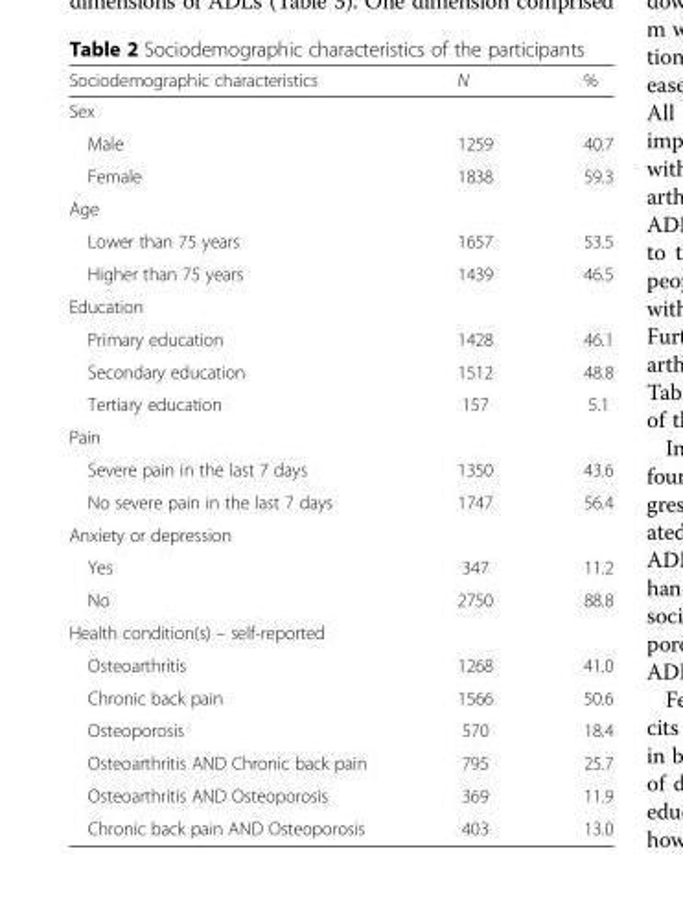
<table><thead><tr><td>Sociodemographic characteristics</td><td>N</td><td>%</td></tr></thead><tbody><tr><td colspan="3">Sex</td></tr><tr><td>Male</td><td>1259</td><td>40.7</td></tr><tr><td>Female</td><td>1838</td><td>59.3</td></tr><tr><td colspan="3">Age</td></tr><tr><td>Lower than 75 years</td><td>1657</td><td>53.5</td></tr><tr><td>Higher than 75 years</td><td>1439</td><td>46.5</td></tr><tr><td colspan="3">Education</td></tr><tr><td>Primary education</td><td>1428</td><td>46.1</td></tr><tr><td>Secondary education</td><td>1512</td><td>48.8</td></tr><tr><td>Tertiary education</td><td>157</td><td>5.1</td></tr><tr><td colspan="3">Pain</td></tr><tr><td>Severe pain in the last 7 days</td><td>1350</td><td>43.6</td></tr><tr><td>No severe pain in the last 7 days</td><td>1747</td><td>56.4</td></tr><tr><td colspan="3">Anxiety or depression</td></tr><tr><td>Yes</td><td>347</td><td>11.2</td></tr><tr><td>No</td><td>2750</td><td>88.8</td></tr><tr><td colspan="3">Health condition(s) – self-reported</td></tr><tr><td>Osteoarthritis</td><td>1268</td><td>41.0</td></tr><tr><td>Chronic back pain</td><td>1566</td><td>50.6</td></tr><tr><td>Osteoporosis</td><td>570</td><td>18.4</td></tr><tr><td>Osteoarthritis AND Chronic back pain</td><td>795</td><td>25.7</td></tr><tr><td>Osteoarthritis AND Osteoporosis</td><td>369</td><td>11.9</td></tr><tr><td>Chronic back pain AND Osteoporosis</td><td>403</td><td>13.0</td></tr></tbody></table>